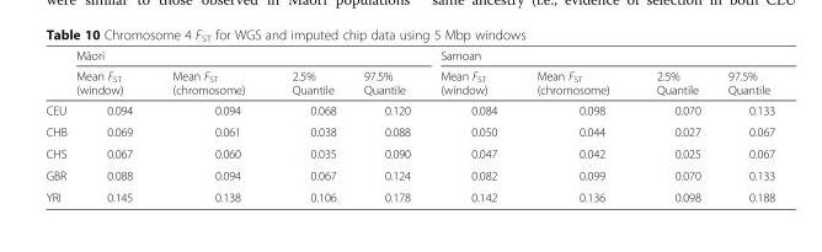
<table><thead><tr><td rowspan="2"></td><td colspan="4">Māori</td><td colspan="4">Samoan</td></tr><tr><td>Mean F<sub>ST</sub> (window)</td><td>Mean F<sub>ST</sub> (chromosome)</td><td>2.5% Quantile</td><td>97.5% Quantile</td><td>Mean F<sub>ST</sub> (window)</td><td>Mean F<sub>ST</sub> (chromosome)</td><td>2.5% Quantile</td><td>97.5% Quantile</td></tr></thead><tbody><tr><td>CEU</td><td>0.094</td><td>0.094</td><td>0.068</td><td>0.120</td><td>0.084</td><td>0.098</td><td>0.070</td><td>0.133</td></tr><tr><td>CHB</td><td>0.069</td><td>0.061</td><td>0.038</td><td>0.088</td><td>0.050</td><td>0.044</td><td>0.027</td><td>0.067</td></tr><tr><td>CHS</td><td>0.067</td><td>0.060</td><td>0.035</td><td>0.090</td><td>0.047</td><td>0.042</td><td>0.025</td><td>0.067</td></tr><tr><td>GBR</td><td>0.088</td><td>0.094</td><td>0.067</td><td>0.124</td><td>0.082</td><td>0.099</td><td>0.070</td><td>0.133</td></tr><tr><td>YRI</td><td>0.145</td><td>0.138</td><td>0.106</td><td>0.178</td><td>0.142</td><td>0.136</td><td>0.098</td><td>0.188</td></tr></tbody></table>